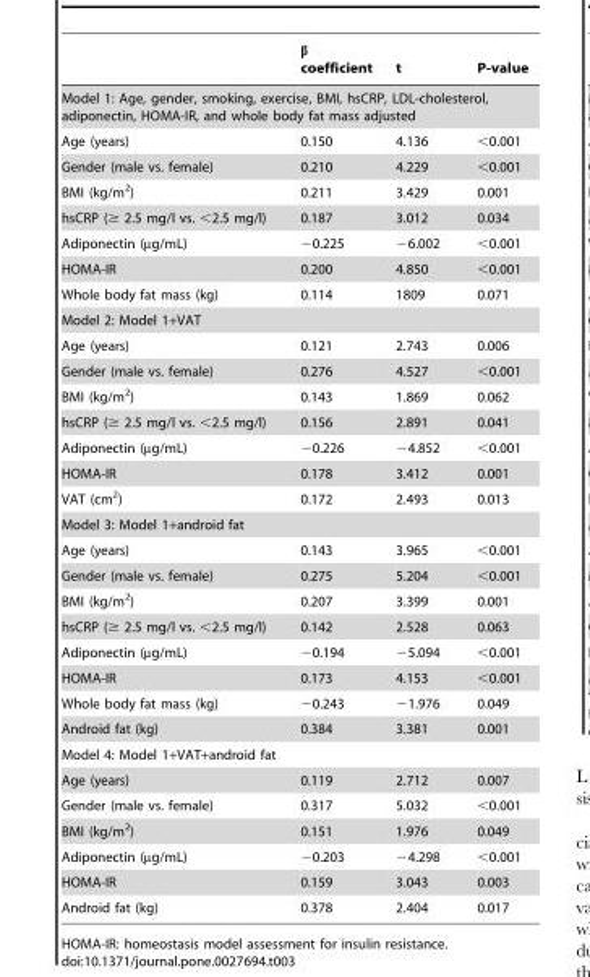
<table><thead><tr><td></td><td>coefficient</td><td>t</td><td>P-value</td></tr></thead><tbody><tr><td colspan="4">Model 1: Age, gender, smoking, exercise, BMI, hsCRP, LDL-cholesterol, adiponectin, HOMA-IR, and whole body fat mass adjusted</td></tr><tr><td>Age (years)</td><td>0.150</td><td>4.136</td><td>&lt;0.001</td></tr><tr><td>Gender (male vs. female)</td><td>0.210</td><td>4.229</td><td>&lt;0.001</td></tr><tr><td>BMI (kg/m<sup>2</sup>)</td><td>0.211</td><td>3.429</td><td>0.001</td></tr><tr><td>hsCRP (≥ 2.5 mg/l vs. &lt;2.5 mg/l)</td><td>0.187</td><td>3.012</td><td>0.034</td></tr><tr><td>Adiponectin (µg/mL)</td><td>−0.225</td><td>−6.002</td><td>&lt;0.001</td></tr><tr><td>HOMA-IR</td><td>0.200</td><td>4.850</td><td>&lt;0.001</td></tr><tr><td>Whole body fat mass (kg)</td><td>0.114</td><td>1809</td><td>0.071</td></tr><tr><td colspan="4">Model 2: Model 1+VAT</td></tr><tr><td>Age (years)</td><td>0.121</td><td>2.743</td><td>0.006</td></tr><tr><td>Gender (male vs. female)</td><td>0.276</td><td>4.527</td><td>&lt;0.001</td></tr><tr><td>BMI (kg/m<sup>2</sup>)</td><td>0.143</td><td>1.869</td><td>0.062</td></tr><tr><td>hsCRP (≥ 2.5 mg/l vs. &lt;2.5 mg/l)</td><td>0.156</td><td>2.891</td><td>0.041</td></tr><tr><td>Adiponectin (µg/mL)</td><td>−0.226</td><td>−4.852</td><td>&lt;0.001</td></tr><tr><td>HOMA-IR</td><td>0.178</td><td>3.412</td><td>0.001</td></tr><tr><td>VAT (cm<sup>2</sup>)</td><td>0.172</td><td>2.493</td><td>0.013</td></tr><tr><td colspan="4">Model 3: Model 1+android fat</td></tr><tr><td>Age (years)</td><td>0.143</td><td>3.965</td><td>&lt;0.001</td></tr><tr><td>Gender (male vs. female)</td><td>0.275</td><td>5.204</td><td>&lt;0.001</td></tr><tr><td>BMI (kg/m<sup>2</sup>)</td><td>0.207</td><td>3.399</td><td>0.001</td></tr><tr><td>hsCRP (≥ 2.5 mg/l vs. &lt;2.5 mg/l)</td><td>0.142</td><td>2.528</td><td>0.063</td></tr><tr><td>Adiponectin (µg/mL)</td><td>−0.194</td><td>−5.094</td><td>&lt;0.001</td></tr><tr><td>HOMA-IR</td><td>0.173</td><td>4.153</td><td>&lt;0.001</td></tr><tr><td>Whole body fat mass (kg)</td><td>−0.243</td><td>−1.976</td><td>0.049</td></tr><tr><td>Android fat (kg)</td><td>0.384</td><td>3.381</td><td>0.001</td></tr><tr><td colspan="4">Model 4: Model 1+VAT+android fat</td></tr><tr><td>Age (years)</td><td>0.119</td><td>2.712</td><td>0.007</td></tr><tr><td>Gender (male vs. female)</td><td>0.317</td><td>5.032</td><td>&lt;0.001</td></tr><tr><td>BMI (kg/m<sup>2</sup>)</td><td>0.151</td><td>1.976</td><td>0.049</td></tr><tr><td>Adiponectin (µg/mL)</td><td>−0.203</td><td>−4.298</td><td>&lt;0.001</td></tr><tr><td>HOMA-IR</td><td>0.159</td><td>3.043</td><td>0.003</td></tr><tr><td>Android fat (kg)</td><td>0.378</td><td>2.404</td><td>0.017</td></tr></tbody></table>